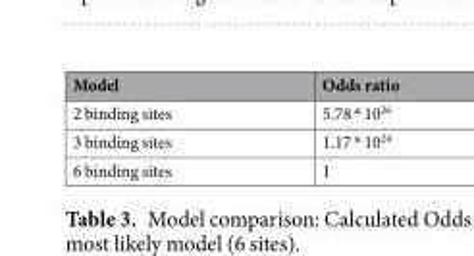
<table><thead><tr><td>Model</td><td>Odds ratio</td></tr></thead><tbody><tr><td>2 binding sites</td><td>5.78 * 10<sup>26</sup></td></tr><tr><td>3 binding sites</td><td>1.17 * 10<sup>24</sup></td></tr><tr><td>6 binding sites</td><td>1</td></tr></tbody></table>